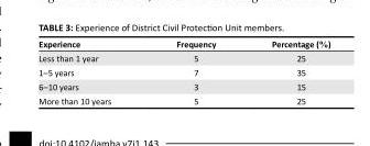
<table><thead><tr><td>Experience</td><td>Frequency</td><td>Percentage (%)</td></tr></thead><tbody><tr><td>Less than 1 year</td><td>5</td><td>25</td></tr><tr><td>1–5 years</td><td>7</td><td>35</td></tr><tr><td>6–10 years</td><td>3</td><td>15</td></tr><tr><td>More than 10 years</td><td>5</td><td>25</td></tr></tbody></table>